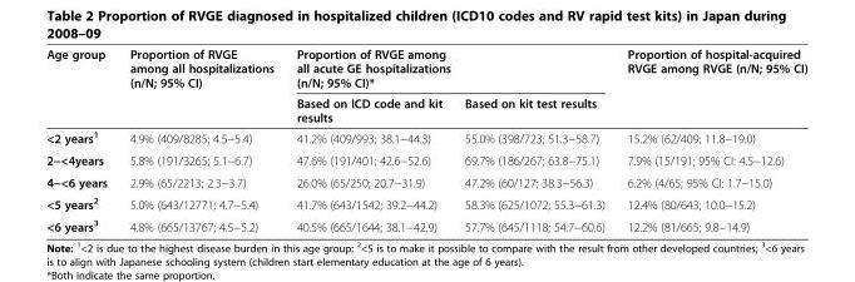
<table><thead><tr><td rowspan="2">Age group</td><td rowspan="2">Proportion of RVGE among all hospitalizations (n/N; 95% CI)</td><td colspan="2">Proportion of RVGE among all acute GE hospitalizations (n/N; 95% CI)*</td><td rowspan="2">Proportion of hospital-acquired RVGE among RVGE (n/N; 95% CI)</td></tr><tr><td>Based on ICD code and kit results</td><td>Based on kit test results</td></tr></thead><tbody><tr><td>&lt;2 years<sup>1</sup></td><td>4.9% (409/8285; 4.5−5.4)</td><td>41.2% (409/993; 38.1−44.3)</td><td>55.0% (398/723; 51.3−58.7)</td><td>15.2% (62/409; 11.8−19.0)</td></tr><tr><td>2−&lt;4years</td><td>5.8% (191/3265; 5.1−6.7)</td><td>47.6% (191/401; 42.6−52.6)</td><td>69.7% (186/267; 63.8−75.1)</td><td>7.9% (15/191; 95% CI: 4.5−12.6)</td></tr><tr><td>4−&lt;6 years</td><td>2.9% (65/2213; 2.3−3.7)</td><td>26.0% (65/250; 20.7−31.9)</td><td>47.2% (60/127; 38.3−56.3)</td><td>6.2% (4/65; 95% CI: 1.7−15.0)</td></tr><tr><td>&lt;5 years<sup>2</sup></td><td>5.0% (643/12771; 4.7−5.4)</td><td>41.7% (643/1542; 39.2−44.2)</td><td>58.3% (625/1072; 55.3−61.3)</td><td>12.4% (80/643; 10.0−15.2)</td></tr><tr><td>&lt;6 years<sup>3</sup></td><td>4.8% (665/13767; 4.5−5.2)</td><td>40.5% (665/1644; 38.1−42.9)</td><td>57.7% (645/1118; 54.7−60.6)</td><td>12.2% (81/665; 9.8−14.9)</td></tr></tbody></table>